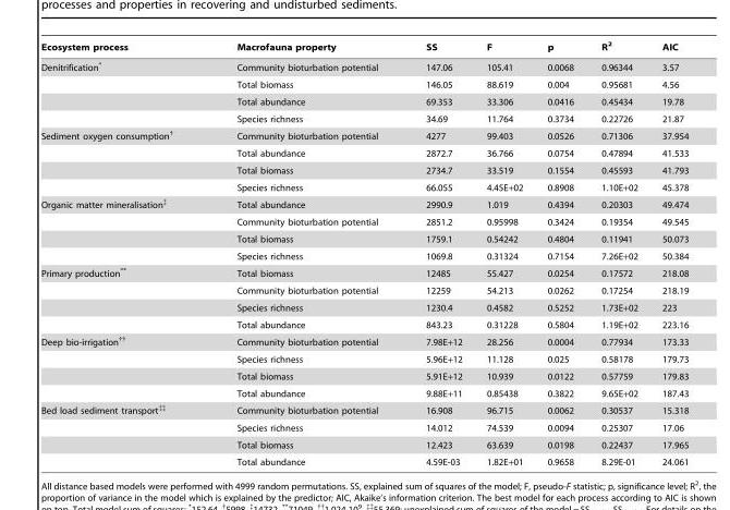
<table><thead><tr><td>Ecosystem process</td><td>Macrofauna property</td><td>SS</td><td>F</td><td>p</td><td>R<sup>2</sup></td><td>AIC</td></tr></thead><tbody><tr><td rowspan="4">Denitrification*</td><td>Community bioturbation potential</td><td>147.06</td><td>105.41</td><td>0.0068</td><td>0.96344</td><td>3.57</td></tr><tr><td>Total biomass</td><td>146.05</td><td>88.619</td><td>0.004</td><td>0.95681</td><td>4.56</td></tr><tr><td>Total abundance</td><td>69.353</td><td>33.306</td><td>0.0416</td><td>0.45434</td><td>19.78</td></tr><tr><td>Species richness</td><td>34.69</td><td>11.764</td><td>0.3734</td><td>0.22726</td><td>21.87</td></tr><tr><td rowspan="4">Sediment oxygen consumption<sup>†</sup></td><td>Community bioturbation potential</td><td>4277</td><td>99.403</td><td>0.0526</td><td>0.71306</td><td>37.954</td></tr><tr><td>Total abundance</td><td>2872.7</td><td>36.766</td><td>0.0754</td><td>0.47894</td><td>41.533</td></tr><tr><td>Total biomass</td><td>2734.7</td><td>33.519</td><td>0.1554</td><td>0.45593</td><td>41.793</td></tr><tr><td>Species richness</td><td>66.055</td><td>4.45E+02</td><td>0.8908</td><td>1.10E+02</td><td>45.378</td></tr><tr><td rowspan="4">Organic matter mineralisation<sup>‡</sup></td><td>Total abundance</td><td>2990.9</td><td>1.019</td><td>0.4394</td><td>0.20303</td><td>49.474</td></tr><tr><td>Community bioturbation potential</td><td>2851.2</td><td>0.95998</td><td>0.3424</td><td>0.19354</td><td>49.545</td></tr><tr><td>Total biomass</td><td>1759.1</td><td>0.54242</td><td>0.4804</td><td>0.11941</td><td>50.073</td></tr><tr><td>Species richness</td><td>1069.8</td><td>0.31324</td><td>0.7154</td><td>7.26E+02</td><td>50.384</td></tr><tr><td rowspan="4">Primary production**</td><td>Total biomass</td><td>12485</td><td>55.427</td><td>0.0254</td><td>0.17572</td><td>218.08</td></tr><tr><td>Community bioturbation potential</td><td>12259</td><td>54.213</td><td>0.0262</td><td>0.17254</td><td>218.19</td></tr><tr><td>Species richness</td><td>1230.4</td><td>0.4582</td><td>0.5252</td><td>1.73E+02</td><td>223</td></tr><tr><td>Total abundance</td><td>843.23</td><td>0.31228</td><td>0.5804</td><td>1.19E+02</td><td>223.16</td></tr><tr><td rowspan="4">Deep bio-irrigation<sup>††</sup></td><td>Community bioturbation potential</td><td>7.98E+12</td><td>28.256</td><td>0.0004</td><td>0.77934</td><td>173.33</td></tr><tr><td>Species richness</td><td>5.96E+12</td><td>11.128</td><td>0.025</td><td>0.58178</td><td>179.73</td></tr><tr><td>Total biomass</td><td>5.91E+12</td><td>10.939</td><td>0.0122</td><td>0.57759</td><td>179.83</td></tr><tr><td>Total abundance</td><td>9.88E+11</td><td>0.85438</td><td>0.3822</td><td>9.65E+02</td><td>187.43</td></tr><tr><td rowspan="4">Bed load sediment transport<sup>‡‡</sup></td><td>Community bioturbation potential</td><td>16.908</td><td>96.715</td><td>0.0062</td><td>0.30537</td><td>15.318</td></tr><tr><td>Species richness</td><td>14.012</td><td>74.539</td><td>0.0094</td><td>0.25307</td><td>17.06</td></tr><tr><td>Total biomass</td><td>12.423</td><td>63.639</td><td>0.0198</td><td>0.22437</td><td>17.965</td></tr><tr><td>Total abundance</td><td>4.59E-03</td><td>1.82E+01</td><td>0.9658</td><td>8.29E-01</td><td>24.061</td></tr></tbody></table>